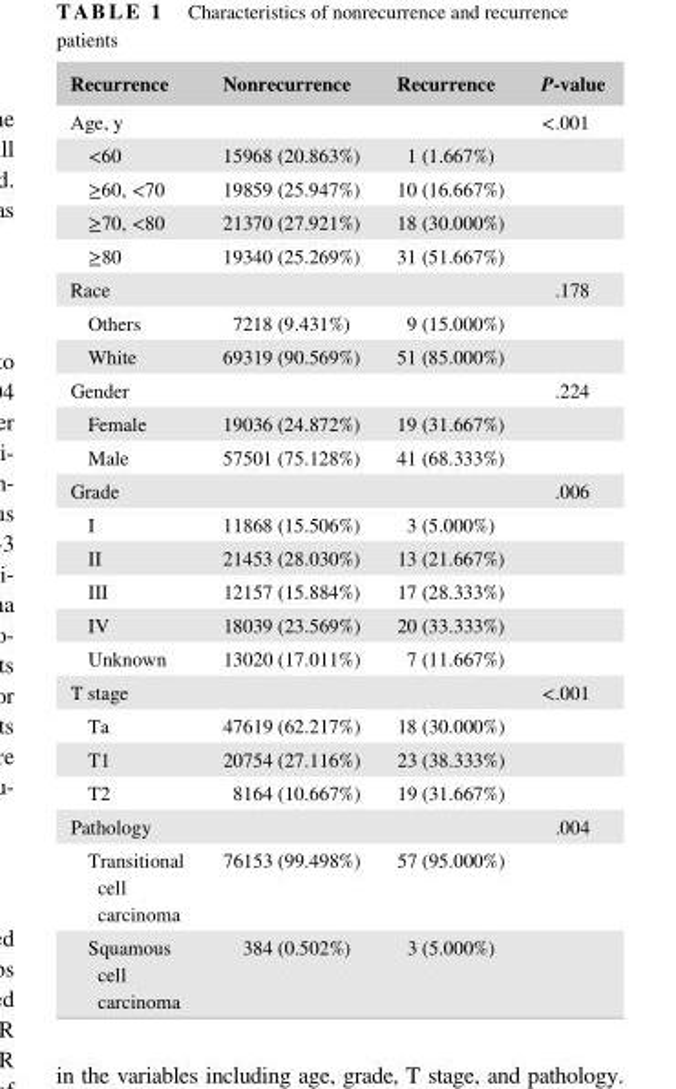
<table><thead><tr><td>Recurrence</td><td>Nonrecurrence</td><td>Recurrence</td><td>P- value</td></tr></thead><tbody><tr><td colspan="3">Age, y</td><td>&lt;.001</td></tr><tr><td>&lt;60</td><td>15968 (20.863%)</td><td>1 (1.667%)</td><td></td></tr><tr><td>≥60, &lt;70</td><td>19859 (25.947%)</td><td>10 (16.667%)</td><td></td></tr><tr><td>≥70, &lt;80</td><td>21370 (27.921%)</td><td>18 (30.000%)</td><td></td></tr><tr><td>≥80</td><td>19340 (25.269%)</td><td>31 (51.667%)</td><td></td></tr><tr><td colspan="3">Race</td><td>.178</td></tr><tr><td>Others</td><td>7218 (9.431%)</td><td>9 (15.000%)</td><td></td></tr><tr><td>White</td><td>69319 (90.569%)</td><td>51 (85.000%)</td><td></td></tr><tr><td colspan="3">Gender</td><td>.224</td></tr><tr><td>Female</td><td>19036 (24.872%)</td><td>19 (31.667%)</td><td></td></tr><tr><td>Male</td><td>57501 (75.128%)</td><td>41 (68.333%)</td><td></td></tr><tr><td colspan="3">Grade</td><td>.006</td></tr><tr><td>I</td><td>11868 (15.506%)</td><td>3 (5.000%)</td><td></td></tr><tr><td>II</td><td>21453 (28.030%)</td><td>13 (21.667%)</td><td></td></tr><tr><td>III</td><td>12157 (15.884%)</td><td>17 (28.333%)</td><td></td></tr><tr><td>IV</td><td>18039 (23.569%)</td><td>20 (33.333%)</td><td></td></tr><tr><td>Unknown</td><td>13020 (17.011%)</td><td>7 (11.667%)</td><td></td></tr><tr><td colspan="3">T stage</td><td>&lt;.001</td></tr><tr><td>Ta</td><td>47619 (62.217%)</td><td>18 (30.000%)</td><td></td></tr><tr><td>T1</td><td>20754 (27.116%)</td><td>23 (38.333%)</td><td></td></tr><tr><td>T2</td><td>8164 (10.667%)</td><td>19 (31.667%)</td><td></td></tr><tr><td colspan="3">Pathology</td><td>.004</td></tr><tr><td>Transitional cell carcinoma</td><td>76153 (99.498%)</td><td>57 (95.000%)</td><td></td></tr><tr><td>Squamous cell carcinoma</td><td>384 (0.502%)</td><td>3 (5.000%)</td><td></td></tr></tbody></table>